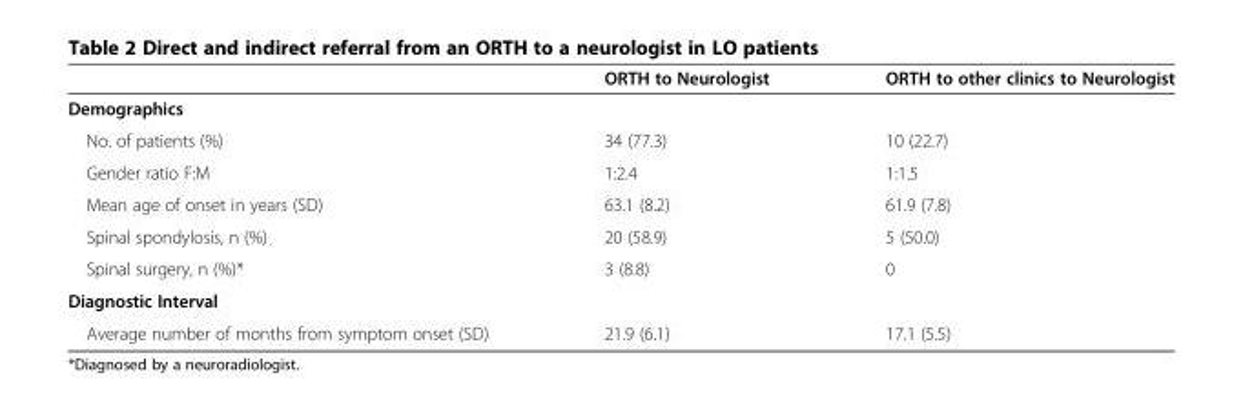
<table><thead><tr><td></td><td>ORTH to Neurologist</td><td>ORTH to other clinics to Neurologist</td></tr></thead><tbody><tr><td colspan="3">Demographics</td></tr><tr><td>No. of patients (%)</td><td>34 (77.3)</td><td>10 (22.7)</td></tr><tr><td>Gender ratio F:M</td><td>1:2.4</td><td>1:1.5</td></tr><tr><td>Mean age of onset in years (SD)</td><td>63.1 (8.2)</td><td>61.9 (7.8)</td></tr><tr><td>Spinal spondylosis, n (%)</td><td>20 (58.9)</td><td>5 (50.0)</td></tr><tr><td>Spinal surgery, n (%)*</td><td>3 (8.8)</td><td>0</td></tr><tr><td colspan="3">Diagnostic Interval</td></tr><tr><td>Average number of months from symptom onset (SD)</td><td>21.9 (6.1)</td><td>17.1 (5.5)</td></tr></tbody></table>